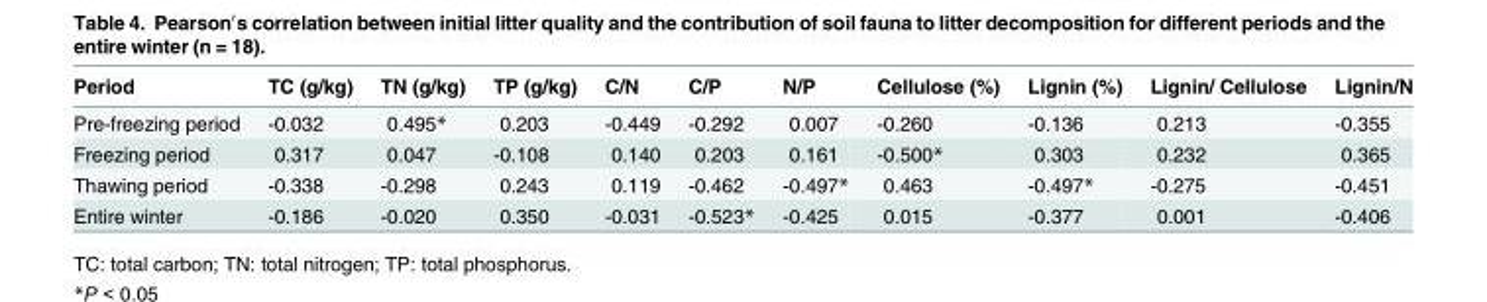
<table><thead><tr><td>Period</td><td>TC (g/kg)</td><td>TN (g/kg)</td><td>TP (g/kg)</td><td>C/N</td><td>C/P</td><td>N/P</td><td>Cellulose (%)</td><td>Lignin (%)</td><td>Lignin/ Cellulose</td><td>Lignin/N</td></tr></thead><tbody><tr><td>Pre-freezing period</td><td>-0.032</td><td>0.495*</td><td>0.203</td><td>-0.449</td><td>-0.292</td><td>0.007</td><td>-0.260</td><td>-0.136</td><td>0.213</td><td>-0.355</td></tr><tr><td>Freezing period</td><td>0.317</td><td>0.047</td><td>-0.108</td><td>0.140</td><td>0.203</td><td>0.161</td><td>-0.500*</td><td>0.303</td><td>0.232</td><td>0.365</td></tr><tr><td>Thawing period</td><td>-0.338</td><td>-0.298</td><td>0.243</td><td>0.119</td><td>-0.462</td><td>-0.497*</td><td>0.463</td><td>-0.497*</td><td>-0.275</td><td>-0.451</td></tr><tr><td>Entire winter</td><td>-0.186</td><td>-0.020</td><td>0.350</td><td>-0.031</td><td>-0.523*</td><td>-0.425</td><td>0.015</td><td>-0.377</td><td>0.001</td><td>-0.406</td></tr></tbody></table>